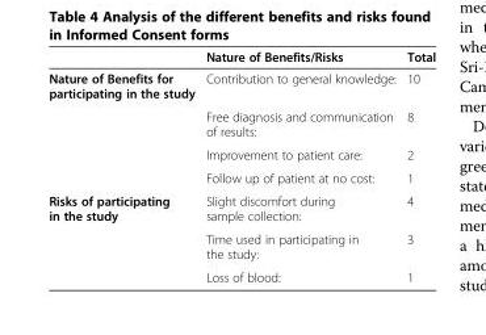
<table><thead><tr><td></td><td>Nature of Benefits/Risks</td><td>Total</td></tr></thead><tbody><tr><td rowspan="4">Nature of Benefits for participating in the study</td><td>Contribution to general knowledge:</td><td>10</td></tr><tr><td>Free diagnosis and communication of results:</td><td>8</td></tr><tr><td>Improvement to patient care:</td><td>2</td></tr><tr><td>Follow up of patient at no cost:</td><td>1</td></tr><tr><td rowspan="3">Risks of participating in the study</td><td>Slight discomfort during sample collection:</td><td>4</td></tr><tr><td>Time used in participating in the study:</td><td>3</td></tr><tr><td>Loss of blood:</td><td>1</td></tr></tbody></table>